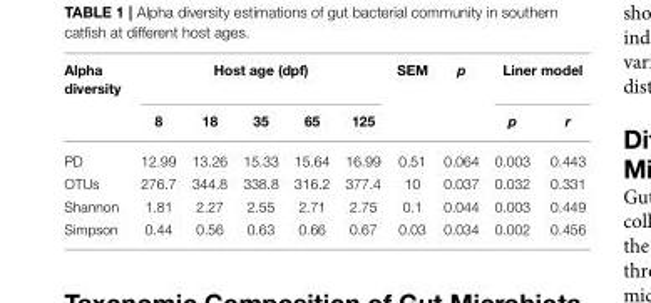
<table><thead><tr><td rowspan="2">Alpha diversity</td><td colspan="5">Host age (dpf)</td><td rowspan="2">SEM</td><td rowspan="2">p</td><td colspan="2">Liner model</td></tr><tr><td>8</td><td>18</td><td>35</td><td>65</td><td>125</td><td>p</td><td>r</td></tr></thead><tbody><tr><td>PD</td><td>12.99</td><td>13.26</td><td>15.33</td><td>15.64</td><td>16.99</td><td>0.51</td><td>0.064</td><td>0.003</td><td>0.443</td></tr><tr><td>OTUs</td><td>276.7</td><td>344.8</td><td>338.8</td><td>316.2</td><td>377.4</td><td>10</td><td>0.037</td><td>0.032</td><td>0.331</td></tr><tr><td>Shannon</td><td>1.81</td><td>2.27</td><td>2.55</td><td>2.71</td><td>2.75</td><td>0.1</td><td>0.044</td><td>0.003</td><td>0.449</td></tr><tr><td>Simpson</td><td>0.44</td><td>0.56</td><td>0.63</td><td>0.66</td><td>0.67</td><td>0.03</td><td>0.034</td><td>0.002</td><td>0.456</td></tr></tbody></table>